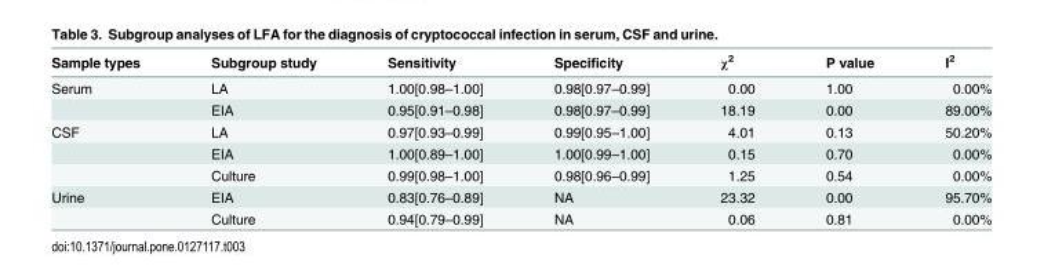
<table><thead><tr><td>Sample types</td><td>Subgroup study</td><td>Sensitivity</td><td>Specificity</td><td>χ<sup>2</sup></td><td>P value</td><td>I<sup>2</sup></td></tr></thead><tbody><tr><td rowspan="2">Serum</td><td>LA</td><td>1.00[0.98–1.00]</td><td>0.98[0.97–0.99]</td><td>0.00</td><td>1.00</td><td>0.00%</td></tr><tr><td>EIA</td><td>0.95[0.91–0.98]</td><td>0.98[0.97–0.99]</td><td>18.19</td><td>0.00</td><td>89.00%</td></tr><tr><td rowspan="3">CSF</td><td>LA</td><td>0.97[0.93–0.99]</td><td>0.99[0.95–1.00]</td><td>4.01</td><td>0.13</td><td>50.20%</td></tr><tr><td>EIA</td><td>1.00[0.89–1.00]</td><td>1.00[0.99–1.00]</td><td>0.15</td><td>0.70</td><td>0.00%</td></tr><tr><td>Culture</td><td>0.99[0.98–1.00]</td><td>0.98[0.96–0.99]</td><td>1.25</td><td>0.54</td><td>0.00%</td></tr><tr><td rowspan="2">Urine</td><td>EIA</td><td>0.83[0.76–0.89]</td><td>NA</td><td>23.32</td><td>0.00</td><td>95.70%</td></tr><tr><td>Culture</td><td>0.94[0.79–0.99]</td><td>NA</td><td>0.06</td><td>0.81</td><td>0.00%</td></tr></tbody></table>